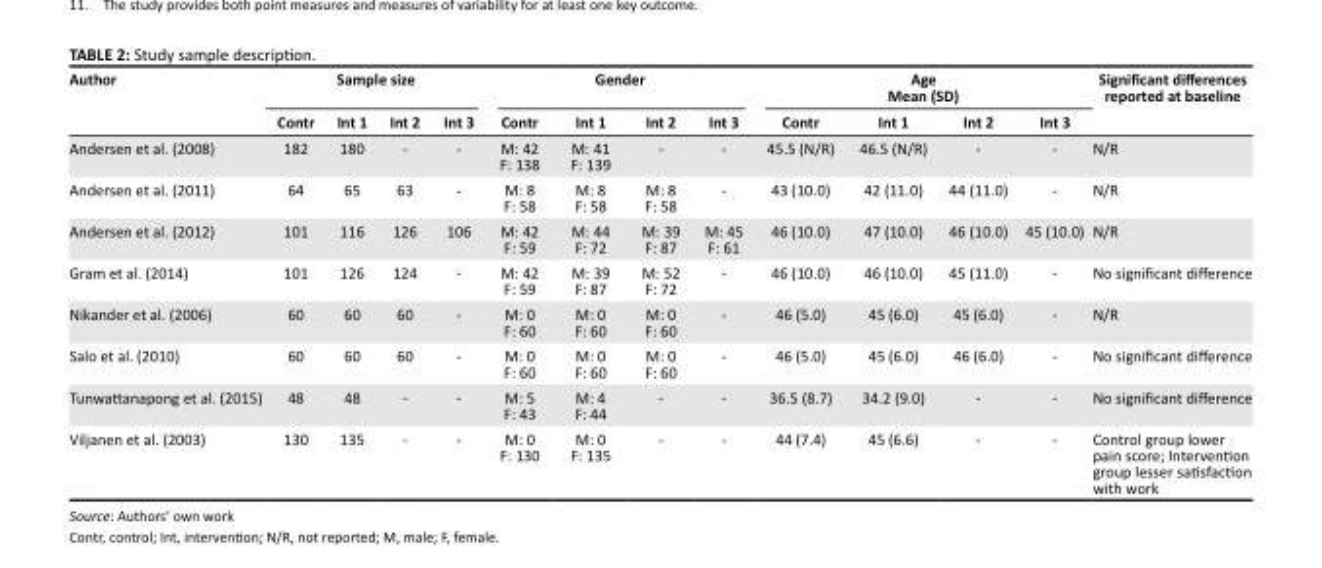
<table><thead><tr><td rowspan="2">Author</td><td colspan="4">Sample size</td><td colspan="4">Gender</td><td colspan="4">Age Mean (SD)</td><td rowspan="2">Significant differences reported at baseline</td></tr><tr><td>Contr</td><td>Int 1</td><td>Int 2</td><td>Int 3</td><td>Contr</td><td>Int 1</td><td>Int 2</td><td>Int 3</td><td>Contr</td><td>Int 1</td><td>Int 2</td><td>Int 3</td></tr></thead><tbody><tr><td>Andersen et al. (2008)</td><td>182</td><td>180</td><td>-</td><td>-</td><td>M: 42 F: 138</td><td>M: 41 F: 139</td><td>-</td><td>-</td><td>45.5 (N/R)</td><td>46.5 (N/R)</td><td>-</td><td>-</td><td>N/R</td></tr><tr><td>Andersen et al. (2011)</td><td>64</td><td>65</td><td>63</td><td>-</td><td>M: 8 F: 58</td><td>M: 8 F: 58</td><td>M: 8 F: 58</td><td>-</td><td>43 (10.0)</td><td>42 (11.0)</td><td>44 (11.0)</td><td>-</td><td>N/R</td></tr><tr><td>Andersen et al. (2012)</td><td>101</td><td>116</td><td>126</td><td>106</td><td>M: 42 F: 59</td><td>M: 44 F: 72</td><td>M: 39 F: 87</td><td>M: 45 F: 61</td><td>46 (10.0)</td><td>47 (10.0)</td><td>46 (10.0)</td><td>45 (10.0)</td><td>N/R</td></tr><tr><td>Gram et al. (2014)</td><td>101</td><td>126</td><td>124</td><td>-</td><td>M: 42 F: 59</td><td>M: 39 F: 87</td><td>M: 52 F: 72</td><td>-</td><td>46 (10.0)</td><td>46 (10.0)</td><td>45 (11.0)</td><td>-</td><td>No significant difference</td></tr><tr><td>Nikander et al. (2006)</td><td>60</td><td>60</td><td>60</td><td>-</td><td>M: 0 F: 60</td><td>M: 0 F: 60</td><td>M: 0 F: 60</td><td>-</td><td>46 (5.0)</td><td>45 (6.0)</td><td>45 (6.0)</td><td>-</td><td>N/R</td></tr><tr><td>Salo et al. (2010)</td><td>60</td><td>60</td><td>60</td><td>-</td><td>M: 0 F: 60</td><td>M: 0 F: 60</td><td>M: 0 F: 60</td><td>-</td><td>46 (5.0)</td><td>45 (6.0)</td><td>46 (6.0)</td><td>-</td><td>No significant difference</td></tr><tr><td>Tunwattanapong et al. (2015)</td><td>48</td><td>48</td><td>-</td><td>-</td><td>M: 5 F: 43</td><td>M: 4 F: 44</td><td>-</td><td>-</td><td>36.5 (8.7)</td><td>34.2 (9.0)</td><td>-</td><td>-</td><td>No significant difference</td></tr><tr><td>Viljanen et al. (2003)</td><td>130</td><td>135</td><td>-</td><td>-</td><td>M: 0 F: 130</td><td>M: 0 F: 135</td><td>-</td><td>-</td><td>44 (7.4)</td><td>45 (6.6)</td><td>-</td><td>-</td><td>Control group lower pain score; Intervention group lesser satisfaction with work</td></tr></tbody></table>